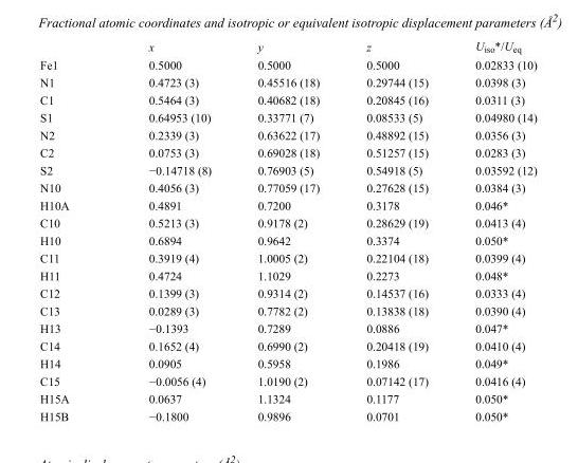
<table><thead><tr><td></td><td>x</td><td>y</td><td>z</td><td>U<sub>iso</sub>*/U<sub>eq</sub></td></tr></thead><tbody><tr><td>Fe1</td><td>0.5000</td><td>0.5000</td><td>0.5000</td><td>0.02833 (10)</td></tr><tr><td>N1</td><td>0.4723 (3)</td><td>0.45516 (18)</td><td>0.29744 (15)</td><td>0.0398 (3)</td></tr><tr><td>C1</td><td>0.5464 (3)</td><td>0.40682 (18)</td><td>0.20845 (16)</td><td>0.0311 (3)</td></tr><tr><td>S1</td><td>0.64953 (10)</td><td>0.33771 (7)</td><td>0.08533 (5)</td><td>0.04980 (14)</td></tr><tr><td>N2</td><td>0.2339 (3)</td><td>0.63622 (17)</td><td>0.48892 (15)</td><td>0.0356 (3)</td></tr><tr><td>C2</td><td>0.0753 (3)</td><td>0.69028 (18)</td><td>0.51257 (15)</td><td>0.0283 (3)</td></tr><tr><td>S2</td><td>−0.14718 (8)</td><td>0.76903 (5)</td><td>0.54918 (5)</td><td>0.03592 (12)</td></tr><tr><td>N10</td><td>0.4056 (3)</td><td>0.77059 (17)</td><td>0.27628 (15)</td><td>0.0384 (3)</td></tr><tr><td>H10A</td><td>0.4891</td><td>0.7200</td><td>0.3178</td><td>0.046*</td></tr><tr><td>C10</td><td>0.5213 (3)</td><td>0.9178 (2)</td><td>0.28629 (19)</td><td>0.0413 (4)</td></tr><tr><td>H10</td><td>0.6894</td><td>0.9642</td><td>0.3374</td><td>0.050*</td></tr><tr><td>C11</td><td>0.3919 (4)</td><td>1.0005 (2)</td><td>0.22104 (18)</td><td>0.0399 (4)</td></tr><tr><td>H11</td><td>0.4724</td><td>1.1029</td><td>0.2273</td><td>0.048*</td></tr><tr><td>C12</td><td>0.1399 (3)</td><td>0.9314 (2)</td><td>0.14537 (16)</td><td>0.0333 (4)</td></tr><tr><td>C13</td><td>0.0289 (3)</td><td>0.7782 (2)</td><td>0.13838 (18)</td><td>0.0390 (4)</td></tr><tr><td>H13</td><td>−0.1393</td><td>0.7289</td><td>0.0886</td><td>0.047*</td></tr><tr><td>C14</td><td>0.1652 (4)</td><td>0.6990 (2)</td><td>0.20418 (19)</td><td>0.0410 (4)</td></tr><tr><td>H14</td><td>0.0905</td><td>0.5958</td><td>0.1986</td><td>0.049*</td></tr><tr><td>C15</td><td>−0.0056 (4)</td><td>1.0190 (2)</td><td>0.07142 (17)</td><td>0.0416 (4)</td></tr><tr><td>H15A</td><td>0.0637</td><td>1.1324</td><td>0.1177</td><td>0.050*</td></tr><tr><td>H15B</td><td>−0.1800</td><td>0.9896</td><td>0.0701</td><td>0.050*</td></tr></tbody></table>